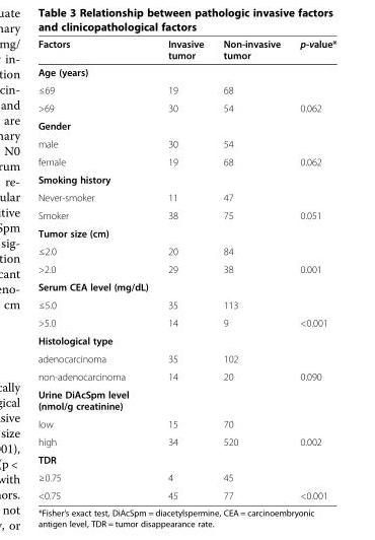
<table><thead><tr><td>Factors</td><td>Invasive tumor</td><td>Non-invasive tumor</td><td>p-value*</td></tr></thead><tbody><tr><td colspan="4">Age (years)</td></tr><tr><td>≤69</td><td>19</td><td>68</td><td></td></tr><tr><td>&gt;69</td><td>30</td><td>54</td><td>0.062</td></tr><tr><td colspan="4">Gender</td></tr><tr><td>male</td><td>30</td><td>54</td><td></td></tr><tr><td>female</td><td>19</td><td>68</td><td>0.062</td></tr><tr><td colspan="4">Smoking history</td></tr><tr><td>Never-smoker</td><td>11</td><td>47</td><td></td></tr><tr><td>Smoker</td><td>38</td><td>75</td><td>0.051</td></tr><tr><td colspan="4">Tumor size (cm)</td></tr><tr><td>≤2.0</td><td>20</td><td>84</td><td></td></tr><tr><td>&gt;2.0</td><td>29</td><td>38</td><td>0.001</td></tr><tr><td colspan="4">Serum CEA level (mg/dL)</td></tr><tr><td>≤5.0</td><td>35</td><td>113</td><td></td></tr><tr><td>&gt;5.0</td><td>14</td><td>9</td><td>&lt;0.001</td></tr><tr><td colspan="4">Histological type</td></tr><tr><td>adenocarcinoma</td><td>35</td><td>102</td><td></td></tr><tr><td>non-adenocarcinoma</td><td>14</td><td>20</td><td>0.090</td></tr><tr><td colspan="4">Urine DiAcSpm level (nmol/g creatinine)</td></tr><tr><td>low</td><td>15</td><td>70</td><td></td></tr><tr><td>high</td><td>34</td><td>520</td><td>0.002</td></tr><tr><td colspan="4">TDR</td></tr><tr><td>≥0.75</td><td>4</td><td>45</td><td></td></tr><tr><td>&lt;0.75</td><td>45</td><td>77</td><td>&lt;0.001</td></tr></tbody></table>